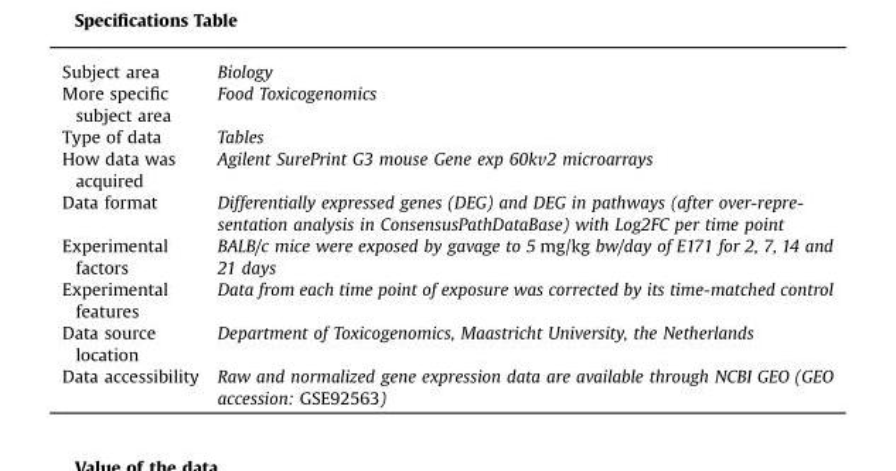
<table><tbody><tr><td>Subject area</td><td>Biology</td></tr><tr><td>More specific subject area</td><td>Food Toxicogenomics</td></tr><tr><td>Type of data</td><td>Tables</td></tr><tr><td>How data was acquired</td><td>Agilent SurePrint G3 mouse Gene exp 60kv2 microarrays</td></tr><tr><td>Data format</td><td>Differentially expressed genes (DEG) and DEG in pathways (after over-repre- sentation analysis in ConsensusPathDataBase) with Log2FC per time point</td></tr><tr><td>Experimental factors</td><td>BALB/c mice were exposed by gavage to 5 mg/kg bw/day of E171 for 2, 7, 14 and 21 days</td></tr><tr><td>Experimental features</td><td>Data from each time point of exposure was corrected by its time-matched control</td></tr><tr><td>Data source location</td><td>Department of Toxicogenomics, Maastricht University, the Netherlands</td></tr><tr><td>Data accessibility</td><td>Raw and normalized gene expression data are available through NCBI GEO (GEO accession: GSE92563)</td></tr></tbody></table>